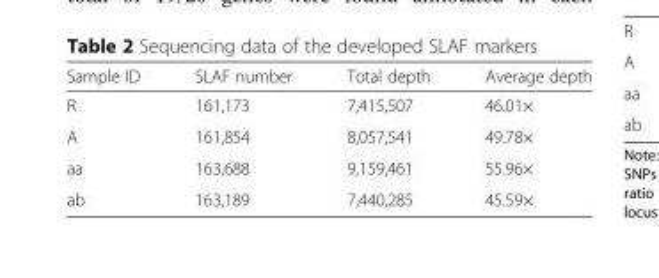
<table><thead><tr><td>Sample ID</td><td>SLAF number</td><td>Total depth</td><td>Average depth</td></tr></thead><tbody><tr><td>R</td><td>161,173</td><td>7,415,507</td><td>46.01×</td></tr><tr><td>A</td><td>161,854</td><td>8,057,541</td><td>49.78×</td></tr><tr><td>aa</td><td>163,688</td><td>9,159,461</td><td>55.96×</td></tr><tr><td>ab</td><td>163,189</td><td>7,440,285</td><td>45.59×</td></tr></tbody></table>